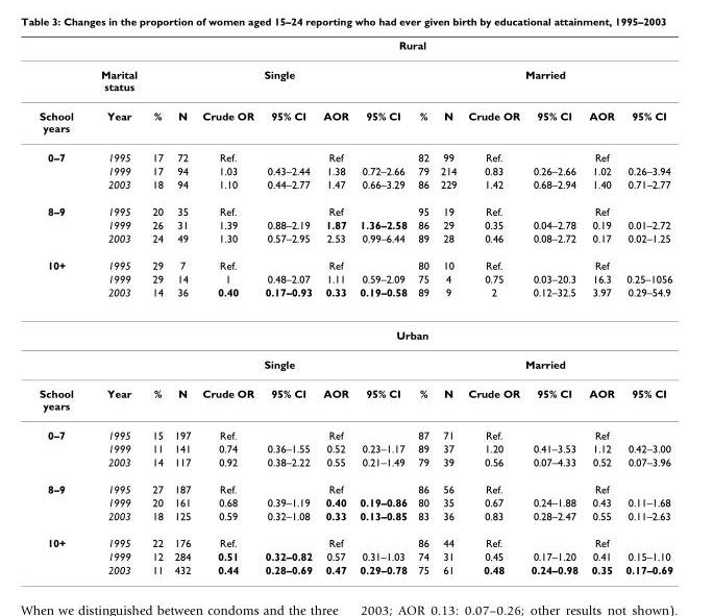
<table><thead><tr><td rowspan="3">School years</td><td rowspan="3">Marital status Year</td><td colspan="12">Rural</td></tr><tr><td colspan="6">Single</td><td colspan="6">Married</td></tr><tr><td>%</td><td>N</td><td>Crude OR</td><td>95% CI</td><td>AOR</td><td>95% CI</td><td>%</td><td>N</td><td>Crude OR</td><td>95% CI</td><td>AOR</td><td>95% CI</td></tr></thead><tbody><tr><td rowspan="3">0–7</td><td>1995</td><td>17</td><td>72</td><td>Ref.</td><td></td><td>Ref</td><td></td><td>82</td><td>99</td><td>Ref.</td><td></td><td>Ref</td><td></td></tr><tr><td>1999</td><td>17</td><td>94</td><td>1.03</td><td>0.43–2.44</td><td>1.38</td><td>0.72–2.66</td><td>79</td><td>214</td><td>0.83</td><td>0.26–2.66</td><td>1.02</td><td>0.26–3.94</td></tr><tr><td>2003</td><td>18</td><td>94</td><td>1.10</td><td>0.44–2.77</td><td>1.47</td><td>0.66–3.29</td><td>86</td><td>229</td><td>1.42</td><td>0.68–2.94</td><td>1.40</td><td>0.71–2.77</td></tr><tr><td rowspan="3">8–9</td><td>1995</td><td>20</td><td>35</td><td>Ref.</td><td></td><td>Ref</td><td></td><td>95</td><td>19</td><td>Ref.</td><td></td><td>Ref</td><td></td></tr><tr><td>1999</td><td>26</td><td>31</td><td>1.39</td><td>0.88–2.19</td><td>1.87</td><td>1.36–2.58</td><td>86</td><td>29</td><td>0.35</td><td>0.04–2.78</td><td>0.19</td><td>0.01–2.72</td></tr><tr><td>2003</td><td>24</td><td>49</td><td>1.30</td><td>0.57–2.95</td><td>2.53</td><td>0.99–6.44</td><td>89</td><td>28</td><td>0.46</td><td>0.08–2.72</td><td>0.17</td><td>0.02–1.25</td></tr><tr><td rowspan="5">10+</td><td>1995</td><td>29</td><td>7</td><td>Ref.</td><td></td><td>Ref</td><td></td><td>80</td><td>10</td><td>Ref.</td><td></td><td>Ref</td><td></td></tr><tr><td>1999</td><td>29</td><td>14</td><td>1</td><td>0.48–2.07</td><td>1.11</td><td>0.59–2.09</td><td>75</td><td>4</td><td>0.75</td><td>0.03–20.3</td><td>16.3</td><td>0.25–1056</td></tr><tr><td>2003</td><td>14</td><td>36</td><td>0.40</td><td>0.17–0.93</td><td>0.33</td><td>0.19–0.58</td><td>89</td><td>9</td><td>2</td><td>0.12–32.5</td><td>3.97</td><td>0.29–54.9</td></tr><tr><td></td><td colspan="12">Urban</td></tr><tr><td></td><td colspan="6">Single</td><td colspan="6">Married</td></tr><tr><td>School years</td><td>Year</td><td>%</td><td>N</td><td>Crude OR</td><td>95% CI</td><td>AOR</td><td>95% CI</td><td>%</td><td>N</td><td>Crude OR</td><td>95% CI</td><td>AOR</td><td>95% CI</td></tr><tr><td rowspan="3">0–7</td><td>1995</td><td>15</td><td>197</td><td>Ref.</td><td></td><td>Ref</td><td></td><td>87</td><td>71</td><td>Ref.</td><td></td><td>Ref</td><td></td></tr><tr><td>1999</td><td>11</td><td>141</td><td>0.74</td><td>0.36–1.55</td><td>0.52</td><td>0.23–1.17</td><td>89</td><td>37</td><td>1.20</td><td>0.41–3.53</td><td>1.12</td><td>0.42–3.00</td></tr><tr><td>2003</td><td>14</td><td>117</td><td>0.92</td><td>0.38–2.22</td><td>0.55</td><td>0.21–1.49</td><td>79</td><td>39</td><td>0.56</td><td>0.07–4.33</td><td>0.52</td><td>0.07–3.96</td></tr><tr><td rowspan="3">8–9</td><td>1995</td><td>27</td><td>187</td><td>Ref.</td><td></td><td>Ref</td><td></td><td>86</td><td>56</td><td>Ref.</td><td></td><td>Ref</td><td></td></tr><tr><td>1999</td><td>20</td><td>161</td><td>0.68</td><td>0.39–1.19</td><td>0.40</td><td>0.19–0.86</td><td>80</td><td>35</td><td>0.67</td><td>0.24–1.88</td><td>0.43</td><td>0.11–1.68</td></tr><tr><td>2003</td><td>18</td><td>125</td><td>0.59</td><td>0.32–1.08</td><td>0.33</td><td>0.13–0.85</td><td>83</td><td>36</td><td>0.83</td><td>0.28–2.47</td><td>0.55</td><td>0.11–2.63</td></tr><tr><td rowspan="3">10+</td><td>1995</td><td>22</td><td>176</td><td>Ref.</td><td></td><td>Ref</td><td></td><td>86</td><td>44</td><td>Ref.</td><td></td><td>Ref</td><td></td></tr><tr><td>1999</td><td>12</td><td>284</td><td>0.51</td><td>0.32–0.82</td><td>0.57</td><td>0.31–1.03</td><td>74</td><td>31</td><td>0.45</td><td>0.17–1.20</td><td>0.41</td><td>0.15–1.10</td></tr><tr><td>2003</td><td>11</td><td>432</td><td>0.44</td><td>0.28–0.69</td><td>0.47</td><td>0.29–0.78</td><td>75</td><td>61</td><td>0.48</td><td>0.24–0.98</td><td>0.35</td><td>0.17–0.69</td></tr></tbody></table>